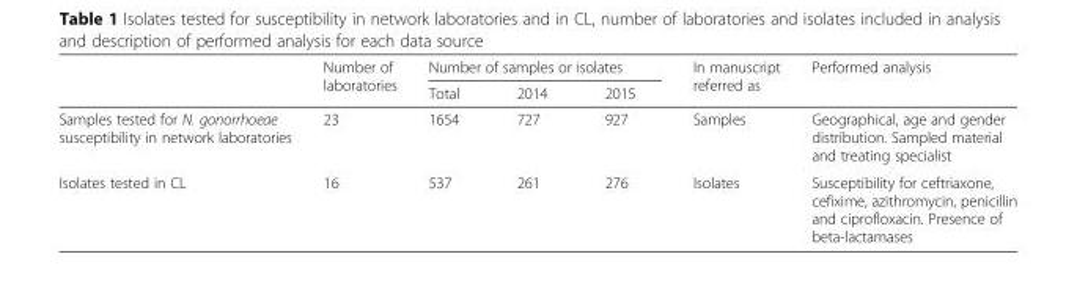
<table><thead><tr><td rowspan="2"></td><td rowspan="2">Number of laboratories</td><td colspan="3">Number of samples or isolates</td><td rowspan="2">In manuscript referred as</td><td rowspan="2">Performed analysis</td></tr><tr><td>Total</td><td>2014</td><td>2015</td></tr></thead><tbody><tr><td>Samples tested for N. gonorrhoeae susceptibility in network laboratories</td><td>23</td><td>1654</td><td>727</td><td>927</td><td>Samples</td><td>Geographical, age and gender distribution. Sampled material and treating specialist</td></tr><tr><td>Isolates tested in CL</td><td>16</td><td>537</td><td>261</td><td>276</td><td>Isolates</td><td>Susceptibility for ceftriaxone, cefixime, azithromycin, penicillin and ciprofloxacin. Presence of beta-lactamases</td></tr></tbody></table>